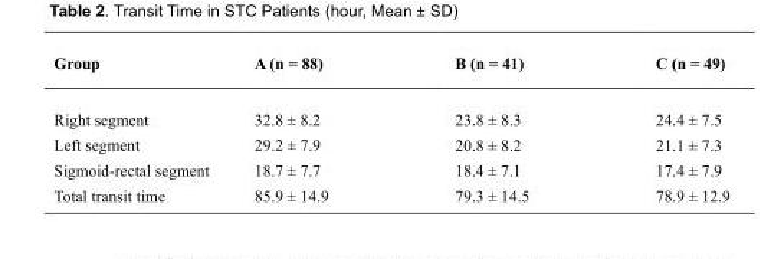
<table><thead><tr><td>Group</td><td>A (n = 88)</td><td>B (n = 41)</td><td>C (n = 49)</td></tr></thead><tbody><tr><td>Right segment</td><td>32.8 ± 8.2</td><td>23.8 ± 8.3</td><td>24.4 ± 7.5</td></tr><tr><td>Left segment</td><td>29.2 ± 7.9</td><td>20.8 ± 8.2</td><td>21.1 ± 7.3</td></tr><tr><td>Sigmoid-rectal segment</td><td>18.7 ± 7.7</td><td>18.4 ± 7.1</td><td>17.4 ± 7.9</td></tr><tr><td>Total transit time</td><td>85.9 ± 14.9</td><td>79.3 ± 14.5</td><td>78.9 ± 12.9</td></tr></tbody></table>